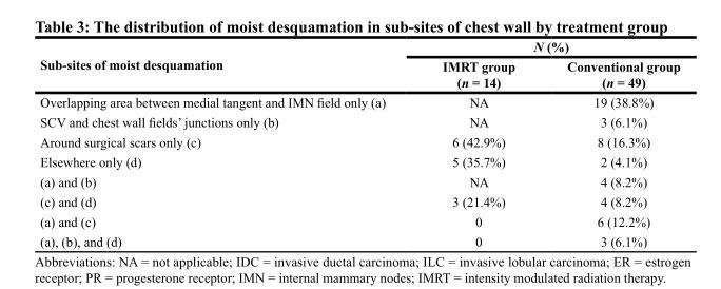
<table><thead><tr><td rowspan="2">Sub-sites of moist desquamation</td><td colspan="2">N (%)</td></tr><tr><td>IMRT group (n = 14)</td><td>Conventional group (n = 49)</td></tr></thead><tbody><tr><td>Overlapping area between medial tangent and IMN field only (a)</td><td>NA</td><td>19 (38.8%)</td></tr><tr><td>SCV and chest wall fields’ junctions only (b)</td><td>NA</td><td>3 (6.1%)</td></tr><tr><td>Around surgical scars only (c)</td><td>6 (42.9%)</td><td>8 (16.3%)</td></tr><tr><td>Elsewhere only (d)</td><td>5 (35.7%)</td><td>2 (4.1%)</td></tr><tr><td>(a) and (b)</td><td>NA</td><td>4 (8.2%)</td></tr><tr><td>(c) and (d)</td><td>3 (21.4%)</td><td>4 (8.2%)</td></tr><tr><td>(a) and (c)</td><td>0</td><td>6 (12.2%)</td></tr><tr><td>(a), (b), and (d)</td><td>0</td><td>3 (6.1%)</td></tr></tbody></table>